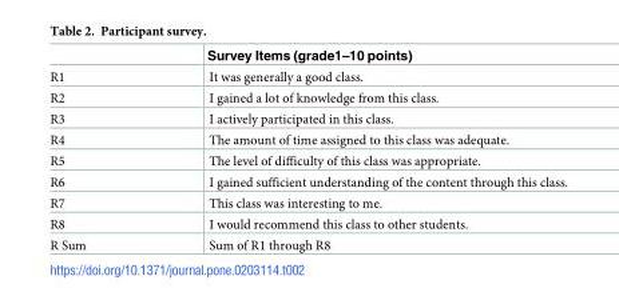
<table><thead><tr><td></td><td>Survey Items (grade1–10 points)</td></tr></thead><tbody><tr><td>R1</td><td>It was generally a good class.</td></tr><tr><td>R2</td><td>I gained a lot of knowledge from this class.</td></tr><tr><td>R3</td><td>I actively participated in this class.</td></tr><tr><td>R4</td><td>The amount of time assigned to this class was adequate.</td></tr><tr><td>R5</td><td>The level of difficulty of this class was appropriate.</td></tr><tr><td>R6</td><td>I gained sufficient understanding of the content through this class.</td></tr><tr><td>R7</td><td>This class was interesting to me.</td></tr><tr><td>R8</td><td>I would recommend this class to other students.</td></tr><tr><td>R Sum</td><td>Sum of R1 through R8</td></tr></tbody></table>